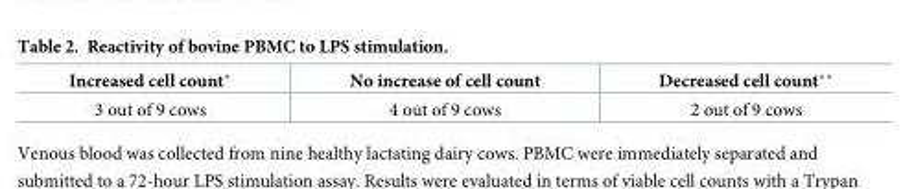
<table><thead><tr><td>Increased cell count*</td><td>No increase of cell count</td><td>Decreased cell count**</td></tr></thead><tbody><tr><td>3 out of 9 cows</td><td>4 out of 9 cows</td><td>2 out of 9 cows</td></tr></tbody></table>